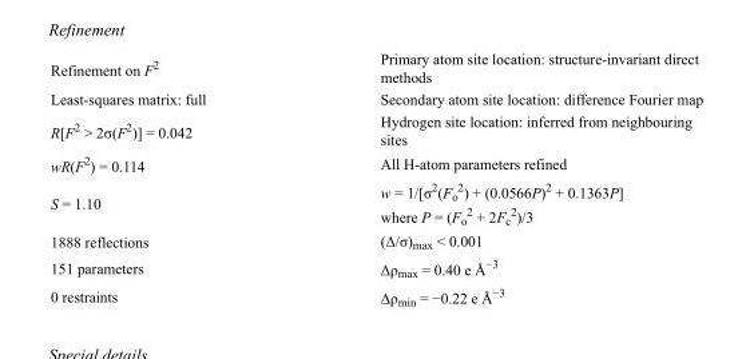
<table><tbody><tr><td>Refinement on F<sup>2</sup></td><td>Primary atom site location: structure-invariant direct methods</td></tr><tr><td>Least-squares matrix: full</td><td>Secondary atom site location: difference Fourier map</td></tr><tr><td>R[F<sup>2</sup> &gt; 2σ(F<sup>2</sup>)] = 0.042</td><td>Hydrogen site location: inferred from neighbouring sites</td></tr><tr><td>wR(F<sup>2</sup>) = 0.114</td><td>All H-atom parameters refined</td></tr><tr><td>S = 1.10</td><td>w = 1/[σ<sup>2</sup>(F<sub>o</sub> <sup>2</sup>) + (0.0566P)<sup>2</sup> + 0.1363P] where P = (F<sub>o</sub> <sup>2</sup> + 2F<sub>c</sub> <sup>2</sup>)/3</td></tr><tr><td>1888 reflections</td><td>(Δ/σ)<sub>max</sub> &lt; 0.001</td></tr><tr><td>151 parameters</td><td>Δρ<sub>max</sub> = 0.40 e Å<sup>−3</sup></td></tr><tr><td>0 restraints</td><td>Δρ<sub>min</sub> = −0.22 e Å<sup>−3</sup></td></tr></tbody></table>